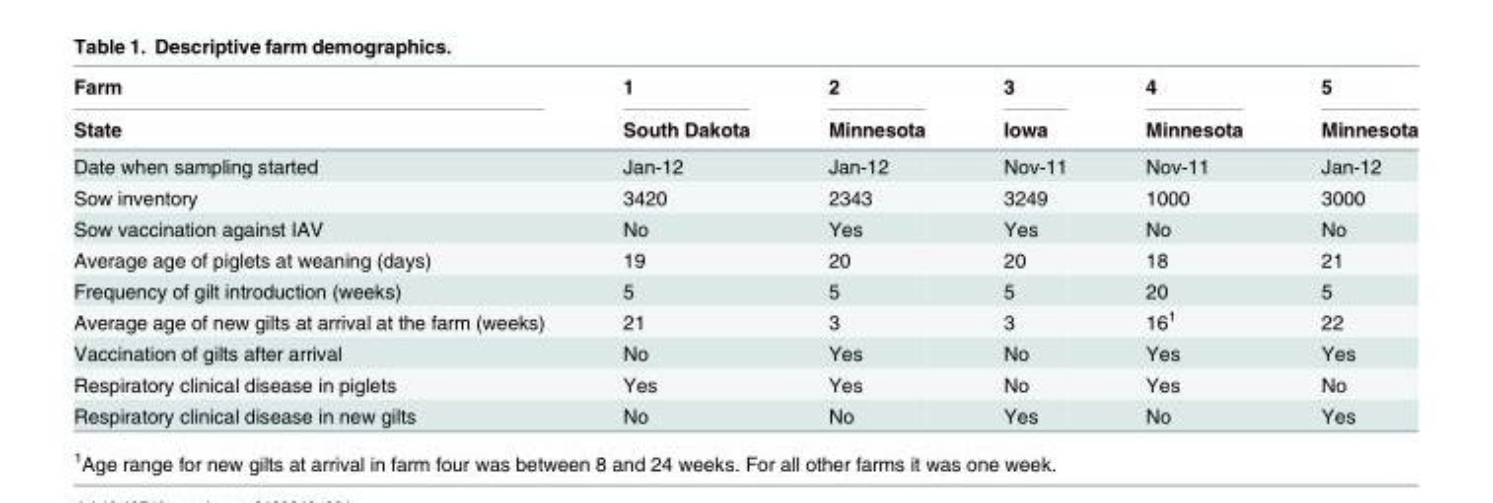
<table><thead><tr><td rowspan="2">Farm State</td><td rowspan="2">1 South Dakota</td><td rowspan="2">2 Minnesota</td><td rowspan="2">3 Iowa</td><td rowspan="2">4 Minnesota</td><td rowspan="2">5 Minnesota</td></tr><tr></tr></thead><tbody><tr><td>Date when sampling started</td><td>Jan-12</td><td>Jan-12</td><td>Nov-11</td><td>Nov-11</td><td>Jan-12</td></tr><tr><td>Sow inventory</td><td>3420</td><td>2343</td><td>3249</td><td>1000</td><td>3000</td></tr><tr><td>Sow vaccination against IAV</td><td>No</td><td>Yes</td><td>Yes</td><td>No</td><td>No</td></tr><tr><td>Average age of piglets at weaning (days)</td><td>19</td><td>20</td><td>20</td><td>18</td><td>21</td></tr><tr><td>Frequency of gilt introduction (weeks)</td><td>5</td><td>5</td><td>5</td><td>20</td><td>5</td></tr><tr><td>Average age of new gilts at arrival at the farm (weeks)</td><td>21</td><td>3</td><td>3</td><td>16<sup>1</sup></td><td>22</td></tr><tr><td>Vaccination of gilts after arrival</td><td>No</td><td>Yes</td><td>No</td><td>Yes</td><td>Yes</td></tr><tr><td>Respiratory clinical disease in piglets</td><td>Yes</td><td>Yes</td><td>No</td><td>Yes</td><td>No</td></tr><tr><td>Respiratory clinical disease in new gilts</td><td>No</td><td>No</td><td>Yes</td><td>No</td><td>Yes</td></tr></tbody></table>